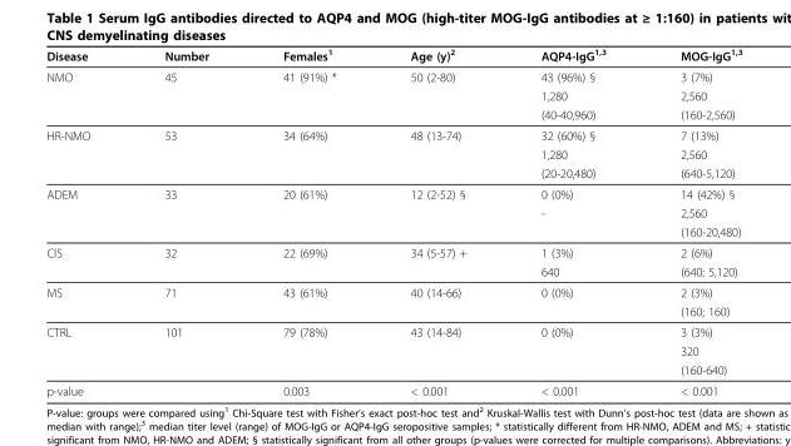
<table><thead><tr><td>Disease</td><td>Number</td><td>Females<sup>1</sup></td><td>Age (y)<sup>2</sup></td><td>AQP4-IgG<sup>1,3</sup></td><td>MOG-IgG<sup>1,3</sup></td></tr></thead><tbody><tr><td rowspan="3">NMO</td><td>45</td><td>41 (91%) *</td><td>50 (2-80)</td><td>43 (96%) §</td><td>3 (7%)</td></tr><tr><td></td><td></td><td></td><td>1,280</td><td>2,560</td></tr><tr><td></td><td></td><td></td><td>(40-40,960)</td><td>(160-2,560)</td></tr><tr><td rowspan="3">HR-NMO</td><td>53</td><td>34 (64%)</td><td>48 (13-74)</td><td>32 (60%) §</td><td>7 (13%)</td></tr><tr><td></td><td></td><td></td><td>1,280</td><td>2,560</td></tr><tr><td></td><td></td><td></td><td>(20-20,480)</td><td>(640-5,120)</td></tr><tr><td rowspan="3">ADEM</td><td>33</td><td>20 (61%)</td><td>12 (2-52) §</td><td>0 (0%)</td><td>14 (42%) §</td></tr><tr><td></td><td></td><td></td><td>-</td><td>2,560</td></tr><tr><td></td><td></td><td></td><td></td><td>(160-20,480)</td></tr><tr><td rowspan="2">CIS</td><td>32</td><td>22 (69%)</td><td>34 (5-57) +</td><td>1 (3%)</td><td>2 (6%)</td></tr><tr><td></td><td></td><td></td><td>640</td><td>(640; 5,120)</td></tr><tr><td rowspan="2">MS</td><td>71</td><td>43 (61%)</td><td>40 (14-66)</td><td>0 (0%)</td><td>2 (3%)</td></tr><tr><td></td><td></td><td></td><td></td><td>(160; 160)</td></tr><tr><td rowspan="3">CTRL</td><td>101</td><td>79 (78%)</td><td>43 (14-84)</td><td>0 (0%)</td><td>3 (3%)</td></tr><tr><td></td><td></td><td></td><td></td><td>320</td></tr><tr><td></td><td></td><td></td><td></td><td>(160-640)</td></tr><tr><td>p-value</td><td></td><td>0.003</td><td>&lt; 0.001</td><td>&lt; 0.001</td><td>&lt; 0.001</td></tr></tbody></table>